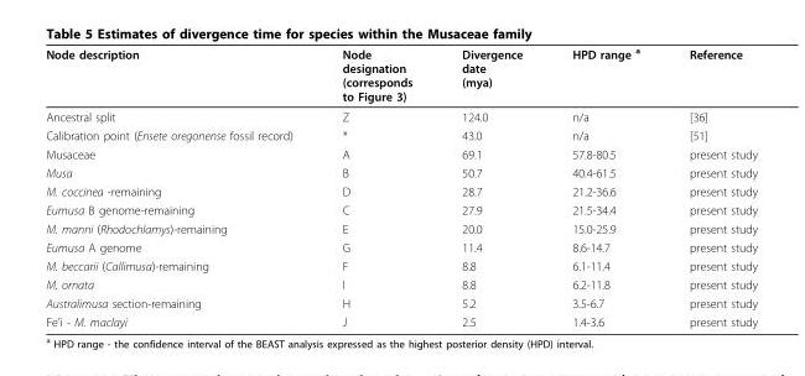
<table><thead><tr><td>Node description</td><td>Node designation (corresponds to Figure 3)</td><td>Divergence date (mya)</td><td>HPD range <sup>a</sup></td><td>Reference</td></tr></thead><tbody><tr><td>Ancestral split</td><td>Z</td><td>124.0</td><td>n/a</td><td>[36]</td></tr><tr><td>Calibration point (Ensete oregonense fossil record)</td><td>*</td><td>43.0</td><td>n/a</td><td>[51]</td></tr><tr><td>Musaceae</td><td>A</td><td>69.1</td><td>57.8-80.5</td><td>present study</td></tr><tr><td>Musa</td><td>B</td><td>50.7</td><td>40.4-61.5</td><td>present study</td></tr><tr><td>M. coccinea -remaining</td><td>D</td><td>28.7</td><td>21.2-36.6</td><td>present study</td></tr><tr><td>Eumusa B genome-remaining</td><td>C</td><td>27.9</td><td>21.5-34.4</td><td>present study</td></tr><tr><td>M. manni (Rhodochlamys)-remaining</td><td>E</td><td>20.0</td><td>15.0-25.9</td><td>present study</td></tr><tr><td>Eumusa A genome</td><td>G</td><td>11.4</td><td>8.6-14.7</td><td>present study</td></tr><tr><td>M. beccarii (Callimusa)-remaining</td><td>F</td><td>8.8</td><td>6.1-11.4</td><td>present study</td></tr><tr><td>M. ornata</td><td>I</td><td>8.8</td><td>6.2-11.8</td><td>present study</td></tr><tr><td>Australimusa section-remaining</td><td>H</td><td>5.2</td><td>3.5-6.7</td><td>present study</td></tr><tr><td>Fe’i - M. maclayi</td><td>J</td><td>2.5</td><td>1.4-3.6</td><td>present study</td></tr></tbody></table>